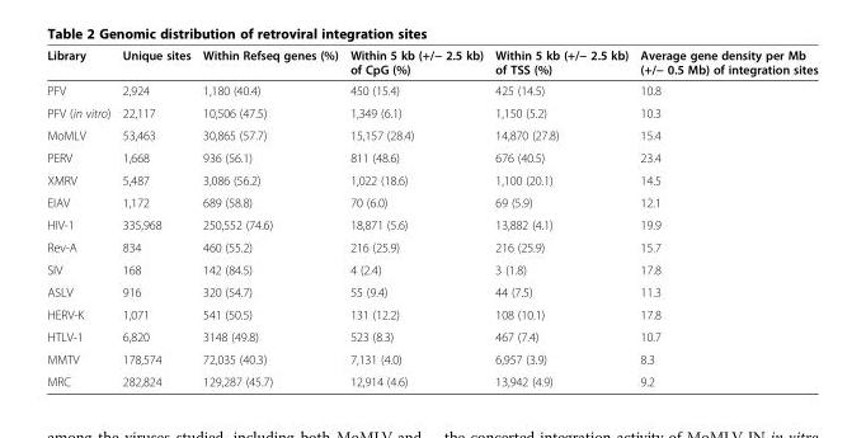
<table><thead><tr><td>Library</td><td>Unique sites</td><td>Within Refseq genes (%)</td><td>Within 5 kb (+/− 2.5 kb) of CpG (%)</td><td>Within 5 kb (+/− 2.5 kb) of TSS (%)</td><td>Average gene density per Mb (+/− 0.5 Mb) of integration sites</td></tr></thead><tbody><tr><td>PFV</td><td>2,924</td><td>1,180 (40.4)</td><td>450 (15.4)</td><td>425 (14.5)</td><td>10.8</td></tr><tr><td>PFV (in vitro)</td><td>22,117</td><td>10,506 (47.5)</td><td>1,349 (6.1)</td><td>1,150 (5.2)</td><td>10.3</td></tr><tr><td>MoMLV</td><td>53,463</td><td>30,865 (57.7)</td><td>15,157 (28.4)</td><td>14,870 (27.8)</td><td>15.4</td></tr><tr><td>PERV</td><td>1,668</td><td>936 (56.1)</td><td>811 (48.6)</td><td>676 (40.5)</td><td>23.4</td></tr><tr><td>XMRV</td><td>5,487</td><td>3,086 (56.2)</td><td>1,022 (18.6)</td><td>1,100 (20.1)</td><td>14.5</td></tr><tr><td>EIAV</td><td>1,172</td><td>689 (58.8)</td><td>70 (6.0)</td><td>69 (5.9)</td><td>12.1</td></tr><tr><td>HIV-1</td><td>335,968</td><td>250,552 (74.6)</td><td>18,871 (5.6)</td><td>13,882 (4.1)</td><td>19.9</td></tr><tr><td>Rev-A</td><td>834</td><td>460 (55.2)</td><td>216 (25.9)</td><td>216 (25.9)</td><td>15.7</td></tr><tr><td>SIV</td><td>168</td><td>142 (84.5)</td><td>4 (2.4)</td><td>3 (1.8)</td><td>17.8</td></tr><tr><td>ASLV</td><td>916</td><td>320 (54.7)</td><td>55 (9.4)</td><td>44 (7.5)</td><td>11.3</td></tr><tr><td>HERV-K</td><td>1,071</td><td>541 (50.5)</td><td>131 (12.2)</td><td>108 (10.1)</td><td>17.8</td></tr><tr><td>HTLV-1</td><td>6,820</td><td>3148 (49.8)</td><td>523 (8.3)</td><td>467 (7.4)</td><td>10.7</td></tr><tr><td>MMTV</td><td>178,574</td><td>72,035 (40.3)</td><td>7,131 (4.0)</td><td>6,957 (3.9)</td><td>8.3</td></tr><tr><td>MRC</td><td>282,824</td><td>129,287 (45.7)</td><td>12,914 (4.6)</td><td>13,942 (4.9)</td><td>9.2</td></tr></tbody></table>